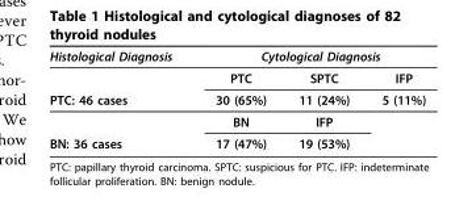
<table><thead><tr><td rowspan="2">Histological Diagnosis</td><td colspan="3">Cytological Diagnosis</td></tr><tr><td>PTC</td><td>SPTC</td><td>IFP</td></tr></thead><tbody><tr><td rowspan="2">PTC: 46 cases</td><td>30 (65%)</td><td>11 (24%)</td><td>5 (11%)</td></tr><tr><td>BN</td><td>IFP</td><td></td></tr><tr><td>BN: 36 cases</td><td>17 (47%)</td><td>19 (53%)</td><td></td></tr></tbody></table>